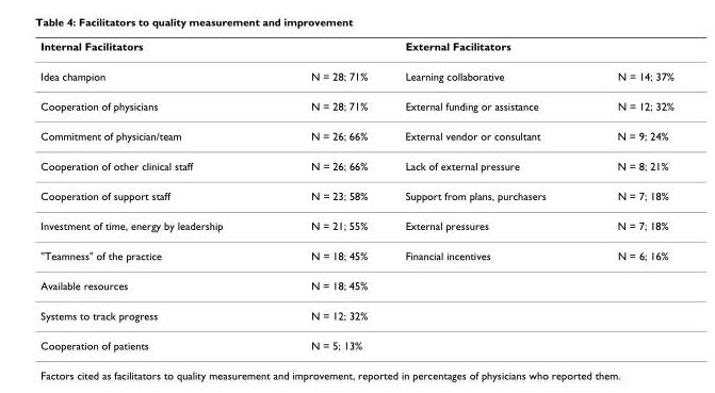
<table><thead><tr><td>Internal Facilitators</td><td></td><td>External Facilitators</td><td></td></tr></thead><tbody><tr><td>Idea champion</td><td>N = 28; 71%</td><td>Learning collaborative</td><td>N = 14; 37%</td></tr><tr><td>Cooperation of physicians</td><td>N = 28; 71%</td><td>External funding or assistance</td><td>N = 12; 32%</td></tr><tr><td>Commitment of physician/team</td><td>N = 26; 66%</td><td>External vendor or consultant</td><td>N = 9; 24%</td></tr><tr><td>Cooperation of other clinical staff</td><td>N = 26; 66%</td><td>Lack of external pressure</td><td>N = 8; 21%</td></tr><tr><td>Cooperation of support staff</td><td>N = 23; 58%</td><td>Support from plans, purchasers</td><td>N = 7; 18%</td></tr><tr><td>Investment of time, energy by leadership</td><td>N = 21; 55%</td><td>External pressures</td><td>N = 7; 18%</td></tr><tr><td>&quot;Teamness&quot; of the practice</td><td>N = 18; 45%</td><td>Financial incentives</td><td>N = 6; 16%</td></tr><tr><td>Available resources</td><td>N = 18; 45%</td><td></td><td></td></tr><tr><td>Systems to track progress</td><td>N = 12; 32%</td><td></td><td></td></tr><tr><td>Cooperation of patients</td><td>N = 5; 13%</td><td></td><td></td></tr></tbody></table>